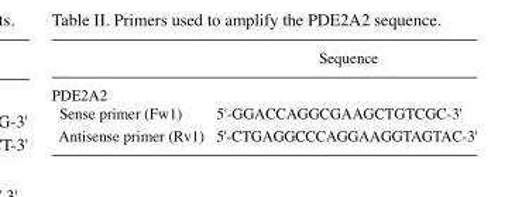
<table><thead><tr><td></td><td>Sequence</td></tr></thead><tbody><tr><td colspan="2">PDE2A2</td></tr><tr><td>Sense primer (Fw1)</td><td>5&#x27;-GGACCAGGCGAAGCTGTCGC-3&#x27;</td></tr><tr><td>Antisense primer (Rv1)</td><td>5&#x27;-CTGAGGCCCAGGAAGGTAGTAC-3&#x27;</td></tr></tbody></table>